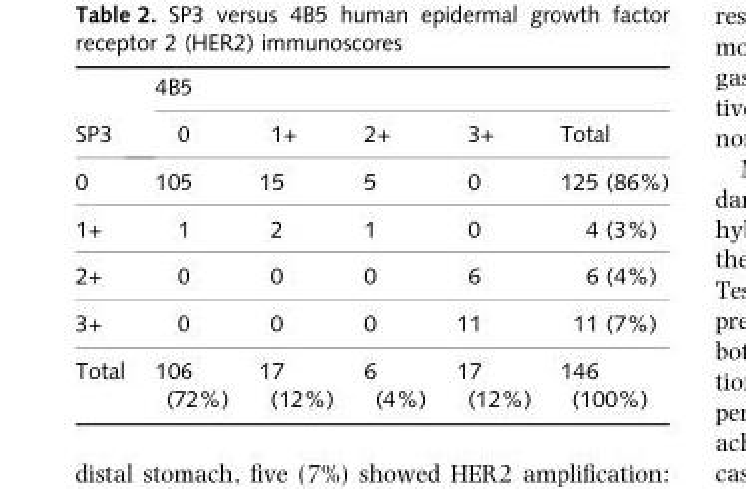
<table><thead><tr><td rowspan="2">SP3</td><td colspan="5">4B5</td></tr><tr><td>0</td><td>1+</td><td>2+</td><td>3+</td><td>Total</td></tr></thead><tbody><tr><td>0</td><td>105</td><td>15</td><td>5</td><td>0</td><td>125 (86%)</td></tr><tr><td>1+</td><td>1</td><td>2</td><td>1</td><td>0</td><td>4 (3%)</td></tr><tr><td>2+</td><td>0</td><td>0</td><td>0</td><td>6</td><td>6 (4%)</td></tr><tr><td>3+</td><td>0</td><td>0</td><td>0</td><td>11</td><td>11 (7%)</td></tr><tr><td>Total</td><td>106 (72%)</td><td>17 (12%)</td><td>6 (4%)</td><td>17 (12%)</td><td>146 (100%)</td></tr></tbody></table>